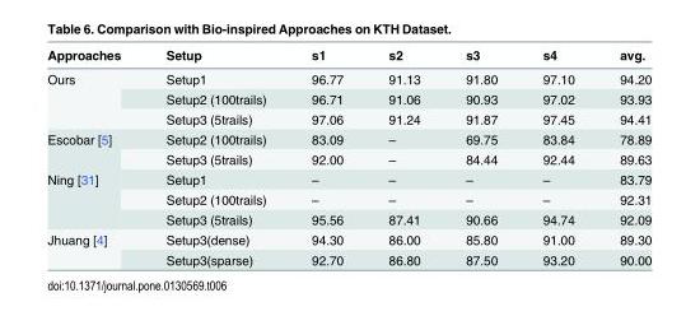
<table><thead><tr><td>Approaches</td><td>Setup</td><td>s1</td><td>s2</td><td>s3</td><td>s4</td><td>avg.</td></tr></thead><tbody><tr><td rowspan="3">Ours</td><td>Setup1</td><td>96.77</td><td>91.13</td><td>91.80</td><td>97.10</td><td>94.20</td></tr><tr><td>Setup2 (100trails)</td><td>96.71</td><td>91.06</td><td>90.93</td><td>97.02</td><td>93.93</td></tr><tr><td>Setup3 (5trails)</td><td>97.06</td><td>91.24</td><td>91.87</td><td>97.45</td><td>94.41</td></tr><tr><td rowspan="2">Escobar [5]</td><td>Setup2 (100trails)</td><td>83.09</td><td>–</td><td>69.75</td><td>83.84</td><td>78.89</td></tr><tr><td>Setup3 (5trails)</td><td>92.00</td><td>–</td><td>84.44</td><td>92.44</td><td>89.63</td></tr><tr><td rowspan="3">Ning [31]</td><td>Setup1</td><td>–</td><td>–</td><td>–</td><td>–</td><td>83.79</td></tr><tr><td>Setup2 (100trails)</td><td>–</td><td>–</td><td>–</td><td>–</td><td>92.31</td></tr><tr><td>Setup3 (5trails)</td><td>95.56</td><td>87.41</td><td>90.66</td><td>94.74</td><td>92.09</td></tr><tr><td rowspan="2">Jhuang [4]</td><td>Setup3(dense)</td><td>94.30</td><td>86.00</td><td>85.80</td><td>91.00</td><td>89.30</td></tr><tr><td>Setup3(sparse)</td><td>92.70</td><td>86.80</td><td>87.50</td><td>93.20</td><td>90.00</td></tr></tbody></table>